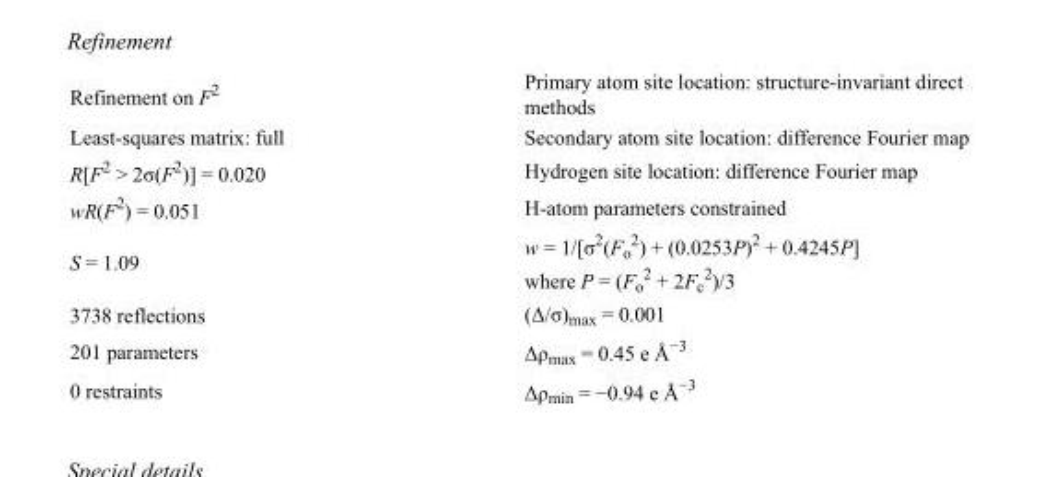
<table><tbody><tr><td>Refinement on F<sup>2</sup></td><td>Primary atom site location: structure-invariant direct methods</td></tr><tr><td>Least-squares matrix: full</td><td>Secondary atom site location: difference Fourier map</td></tr><tr><td>R[F<sup>2</sup> &gt; 2σ(F<sup>2</sup>)] = 0.020</td><td>Hydrogen site location: difference Fourier map</td></tr><tr><td>wR(F<sup>2</sup>) = 0.051</td><td>H-atom parameters constrained</td></tr><tr><td>S = 1.09</td><td>w = 1/[σ<sup>2</sup>(F<sub>o</sub> <sup>2</sup>) + (0.0253P)<sup>2</sup> + 0.4245P] where P = (F<sub>o</sub> <sup>2</sup> + 2F<sub>c</sub> <sup>2</sup>)/3</td></tr><tr><td>3738 reflections</td><td>(Δ/σ)<sub>max</sub> = 0.001</td></tr><tr><td>201 parameters</td><td>Δρ<sub>max</sub> = 0.45 e Å<sup>−3</sup></td></tr><tr><td>0 restraints</td><td>Δρ<sub>min</sub> = −0.94 e Å<sup>−3</sup></td></tr></tbody></table>